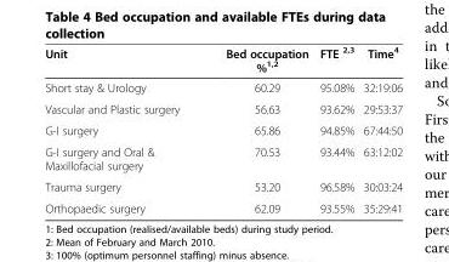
<table><thead><tr><td>Unit</td><td>Bed occupation %<sup>1,2</sup></td><td>FTE <sup>2,3</sup></td><td>Time<sup>4</sup></td></tr></thead><tbody><tr><td>Short stay &amp; Urology</td><td>60.29</td><td>95.08%</td><td>32:19:06</td></tr><tr><td>Vascular and Plastic surgery</td><td>56.63</td><td>93.62%</td><td>29:53:37</td></tr><tr><td>G-I surgery</td><td>65.86</td><td>94.85%</td><td>67:44:50</td></tr><tr><td>G-I surgery and Oral &amp; Maxillofacial surgery</td><td>70.53</td><td>93.44%</td><td>63:12:02</td></tr><tr><td>Trauma surgery</td><td>53.20</td><td>96.58%</td><td>30:03:24</td></tr><tr><td>Orthopaedic surgery</td><td>62.09</td><td>93.55%</td><td>35:29:41</td></tr></tbody></table>